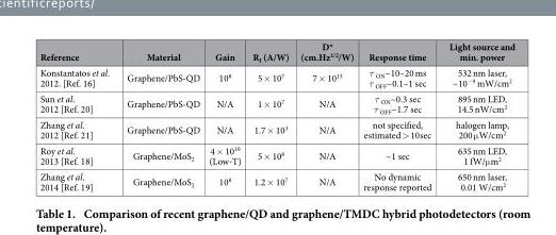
<table><thead><tr><td>Reference</td><td>Material</td><td>Gain</td><td>R<sub>I</sub> (A/W)</td><td>D* (cm.Hz<sup>1/2</sup>/W)</td><td>Response time</td><td>Light source and min. power</td></tr></thead><tbody><tr><td>Konstantatos et al. 2012. [Ref. 16]</td><td>Graphene/PbS-QD</td><td>10<sup>8</sup></td><td>5 × 10<sup>7</sup></td><td>7 × 10<sup>13</sup></td><td>τ <sub>ON</sub>~10–20 ms τ <sub>OFF</sub>~0.1–1 sec</td><td>532 nm laser, ~10<sup>−9</sup> mW/cm<sup>2</sup></td></tr><tr><td>Sun et al. 2012 [Ref. 20]</td><td>Graphene/PbS-QD</td><td>N/A</td><td>1 × 10<sup>7</sup></td><td>N/A</td><td>τ <sub>ON</sub>~0.3 sec τ <sub>OFF</sub>~1.7 sec</td><td>895 nm LED, 14.5 nW/cm<sup>2</sup></td></tr><tr><td>Zhang et al. 2012 [Ref. 21]</td><td>Graphene/PbS-QD</td><td>N/A</td><td>1.7 × 10<sup>3</sup></td><td>N/A</td><td>not specified, estimated &gt; 10sec</td><td>halogen lamp, 200 μ W/cm<sup>2</sup></td></tr><tr><td>Roy et al. 2013 [Ref. 18]</td><td>Graphene/MoS<sub>2</sub></td><td>4 × 10<sup>10</sup> (Low-T)</td><td>5 × 10<sup>8</sup></td><td>N/A</td><td>~1 sec</td><td>635 nm LED, 1 fW/μ m<sup>2</sup></td></tr><tr><td>Zhang et al. 2014 [Ref. 19]</td><td>Graphene/MoS<sub>2</sub></td><td>10<sup>8</sup></td><td>1.2 × 10<sup>7</sup></td><td>N/A</td><td>No dynamic response reported</td><td>650 nm laser, 0.01 W/cm<sup>2</sup></td></tr></tbody></table>